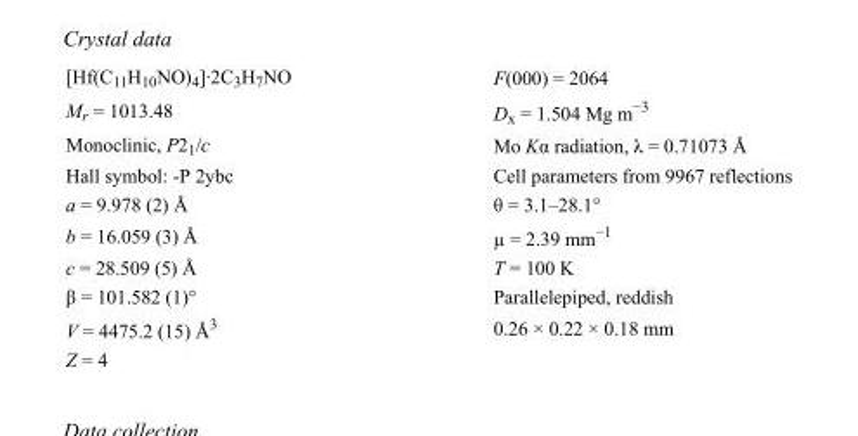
<table><tbody><tr><td>[Hf(C<sub>11</sub>H<sub>10</sub>NO)<sub>4</sub>]·2C<sub>3</sub>H<sub>7</sub>NO</td><td>F(000) = 2064</td></tr><tr><td>M<sub>r</sub> = 1013.48</td><td>D<sub>x</sub> = 1.504 Mg m<sup>−3</sup></td></tr><tr><td>Monoclinic, P2<sub>1</sub>/c</td><td>Mo Kα radiation, λ = 0.71073 Å</td></tr><tr><td>Hall symbol: -P 2ybc</td><td>Cell parameters from 9967 reflections</td></tr><tr><td>a = 9.978 (2) Å</td><td>θ = 3.1–28.1°</td></tr><tr><td>b = 16.059 (3) Å</td><td>µ = 2.39 mm<sup>−1</sup></td></tr><tr><td>c = 28.509 (5) Å</td><td>T = 100 K</td></tr><tr><td>β = 101.582 (1)°</td><td>Parallelepiped, reddish</td></tr><tr><td>V = 4475.2 (15) Å<sup>3</sup></td><td>0.26 × 0.22 × 0.18 mm</td></tr><tr><td>Z = 4</td><td></td></tr></tbody></table>